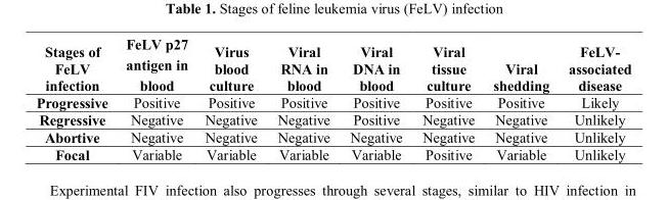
<table><thead><tr><td>Stages of FeLV infection</td><td>FeLV p27 antigen in blood</td><td>Virus blood culture</td><td>Viral RNA in blood</td><td>Viral DNA in blood</td><td>Viral tissue culture</td><td>Viral shedding</td><td>FeLV- associated disease</td></tr></thead><tbody><tr><td>Progressive</td><td>Positive</td><td>Positive</td><td>Positive</td><td>Positive</td><td>Positive</td><td>Positive</td><td>Likely</td></tr><tr><td>Regressive</td><td>Negative</td><td>Negative</td><td>Negative</td><td>Positive</td><td>Negative</td><td>Negative</td><td>Unlikely</td></tr><tr><td>Abortive</td><td>Negative</td><td>Negative</td><td>Negative</td><td>Negative</td><td>Negative</td><td>Negative</td><td>Unlikely</td></tr><tr><td>Focal</td><td>Variable</td><td>Variable</td><td>Variable</td><td>Variable</td><td>Positive</td><td>Variable</td><td>Unlikely</td></tr></tbody></table>